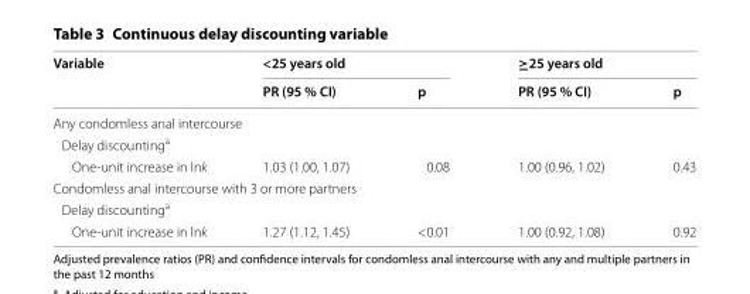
<table><thead><tr><td rowspan="2">Variable</td><td colspan="2">&lt;25 years old</td><td colspan="2">≥25 years old</td></tr><tr><td>PR (95 % CI)</td><td>p</td><td>PR (95 % CI)</td><td>p</td></tr></thead><tbody><tr><td colspan="5">Any condomless anal intercourse</td></tr><tr><td colspan="5">Delay discounting<sup>a</sup></td></tr><tr><td>One-unit increase in lnk</td><td>1.03 (1.00, 1.07)</td><td>0.08</td><td>1.00 (0.96, 1.02)</td><td>0.43</td></tr><tr><td colspan="5">Condomless anal intercourse with 3 or more partners</td></tr><tr><td colspan="5">Delay discounting<sup>a</sup></td></tr><tr><td>One-unit increase in lnk</td><td>1.27 (1.12, 1.45)</td><td>&lt;0.01</td><td>1.00 (0.92, 1.08)</td><td>0.92</td></tr></tbody></table>